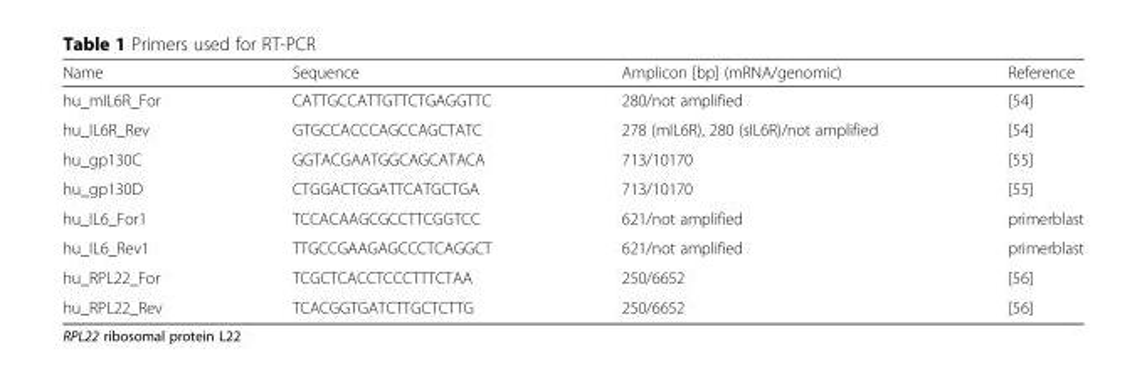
<table><thead><tr><td>Name</td><td>Sequence</td><td>Amplicon [bp] (mRNA/genomic)</td><td>Reference</td></tr></thead><tbody><tr><td>hu_mIL6R_For</td><td>CATTGCCATTGTTCTGAGGTTC</td><td>280/not amplified</td><td>[54]</td></tr><tr><td>hu_IL6R_Rev</td><td>GTGCCACCCAGCCAGCTATC</td><td>278 (mIL6R), 280 (sIL6R)/not amplified</td><td>[54]</td></tr><tr><td>hu_gp130C</td><td>GGTACGAATGGCAGCATACA</td><td>713/10170</td><td>[55]</td></tr><tr><td>hu_gp130D</td><td>CTGGACTGGATTCATGCTGA</td><td>713/10170</td><td>[55]</td></tr><tr><td>hu_IL6_For1</td><td>TCCACAAGCGCCTTCGGTCC</td><td>621/not amplified</td><td>primerblast</td></tr><tr><td>hu_IL6_Rev1</td><td>TTGCCGAAGAGCCCTCAGGCT</td><td>621/not amplified</td><td>primerblast</td></tr><tr><td>hu_RPL22_For</td><td>TCGCTCACCTCCCTTTCTAA</td><td>250/6652</td><td>[56]</td></tr><tr><td>hu_RPL22_Rev</td><td>TCACGGTGATCTTGCTCTTG</td><td>250/6652</td><td>[56]</td></tr></tbody></table>